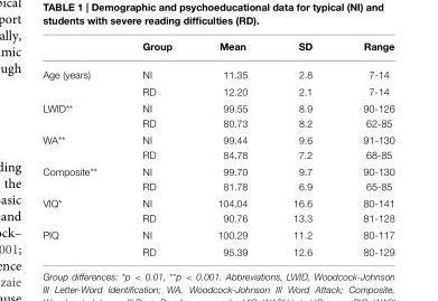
<table><thead><tr><td></td><td>Group</td><td>Mean</td><td>SD</td><td>Range</td></tr></thead><tbody><tr><td rowspan="2">Age (years)</td><td>NI</td><td>11.35</td><td>2.8</td><td>7-14</td></tr><tr><td>RD</td><td>12.20</td><td>2.1</td><td>7-14</td></tr><tr><td rowspan="2">LWID**</td><td>NI</td><td>99.55</td><td>8.9</td><td>90-126</td></tr><tr><td>RD</td><td>80.73</td><td>8.2</td><td>62-85</td></tr><tr><td rowspan="2">WA**</td><td>NI</td><td>99.44</td><td>9.6</td><td>91-130</td></tr><tr><td>RD</td><td>84.78</td><td>7.2</td><td>68-85</td></tr><tr><td rowspan="2">Composite**</td><td>NI</td><td>99.70</td><td>9.7</td><td>90-130</td></tr><tr><td>RD</td><td>81.78</td><td>6.9</td><td>65-85</td></tr><tr><td rowspan="2">VIQ*</td><td>NI</td><td>104.04</td><td>16.6</td><td>80-141</td></tr><tr><td>RD</td><td>90.76</td><td>13.3</td><td>81-128</td></tr><tr><td rowspan="2">PIQ</td><td>NI</td><td>100.29</td><td>11.2</td><td>80-117</td></tr><tr><td>RD</td><td>95.39</td><td>12.6</td><td>80-129</td></tr></tbody></table>